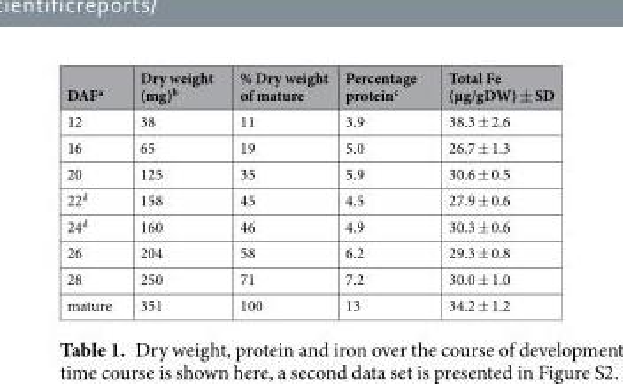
<table><thead><tr><td>DAF<sup>a</sup></td><td>Dry weight (mg)<sup>b</sup></td><td>% Dry weight of mature</td><td>Percentage protein<sup>c</sup></td><td>Total Fe (µg/gDW) ± SD</td></tr></thead><tbody><tr><td>12</td><td>38</td><td>11</td><td>3.9</td><td>38.3 ± 2.6</td></tr><tr><td>16</td><td>65</td><td>19</td><td>5.0</td><td>26.7 ± 1.3</td></tr><tr><td>20</td><td>125</td><td>35</td><td>5.9</td><td>30.6 ± 0.5</td></tr><tr><td>22<sup>d</sup></td><td>158</td><td>45</td><td>4.5</td><td>27.9 ± 0.6</td></tr><tr><td>24<sup>d</sup></td><td>160</td><td>46</td><td>4.9</td><td>30.3 ± 0.6</td></tr><tr><td>26</td><td>204</td><td>58</td><td>6.2</td><td>29.3 ± 0.8</td></tr><tr><td>28</td><td>250</td><td>71</td><td>7.2</td><td>30.0 ± 1.0</td></tr><tr><td>mature</td><td>351</td><td>100</td><td>13</td><td>34.2 ± 1.2</td></tr></tbody></table>